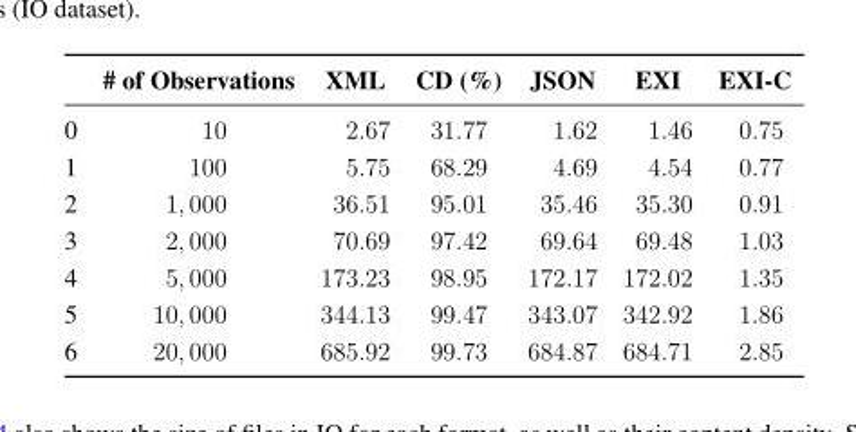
<table><thead><tr><td></td><td># of Observations</td><td>XML</td><td>CD (%)</td><td>JSON</td><td>EXI</td><td>EXI-C</td></tr></thead><tbody><tr><td>0</td><td>10</td><td>2.67</td><td>31.77</td><td>1.62</td><td>1.46</td><td>0.75</td></tr><tr><td>1</td><td>100</td><td>5.75</td><td>68.29</td><td>4.69</td><td>4.54</td><td>0.77</td></tr><tr><td>2</td><td>1, 000</td><td>36.51</td><td>95.01</td><td>35.46</td><td>35.30</td><td>0.91</td></tr><tr><td>3</td><td>2, 000</td><td>70.69</td><td>97.42</td><td>69.64</td><td>69.48</td><td>1.03</td></tr><tr><td>4</td><td>5, 000</td><td>173.23</td><td>98.95</td><td>172.17</td><td>172.02</td><td>1.35</td></tr><tr><td>5</td><td>10, 000</td><td>344.13</td><td>99.47</td><td>343.07</td><td>342.92</td><td>1.86</td></tr><tr><td>6</td><td>20, 000</td><td>685.92</td><td>99.73</td><td>684.87</td><td>684.71</td><td>2.85</td></tr></tbody></table>